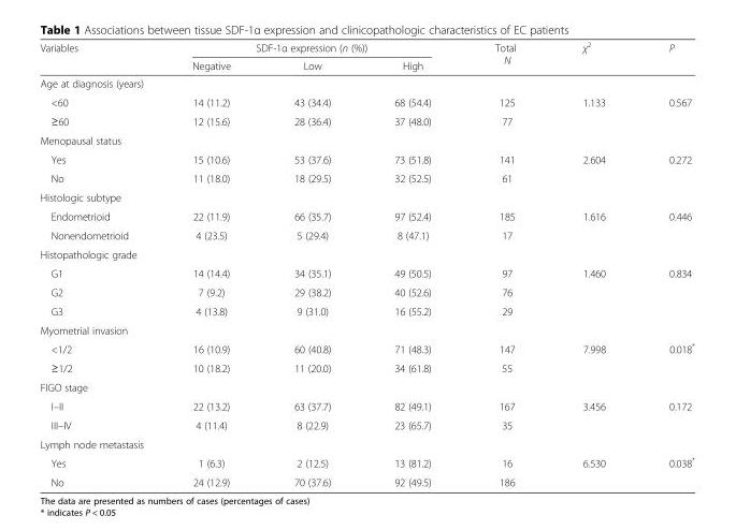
<table><thead><tr><td rowspan="2">Variables</td><td colspan="3">SDF-1α expression (n (%))</td><td rowspan="2">Total N</td><td rowspan="2">χ<sup>2</sup></td><td rowspan="2">P</td></tr><tr><td>Negative</td><td>Low</td><td>High</td></tr></thead><tbody><tr><td colspan="7">Age at diagnosis (years)</td></tr><tr><td>&lt;60</td><td>14 (11.2)</td><td>43 (34.4)</td><td>68 (54.4)</td><td>125</td><td rowspan="2">1.133</td><td rowspan="2">0.567</td></tr><tr><td>≥60</td><td>12 (15.6)</td><td>28 (36.4)</td><td>37 (48.0)</td><td>77</td></tr><tr><td colspan="7">Menopausal status</td></tr><tr><td>Yes</td><td>15 (10.6)</td><td>53 (37.6)</td><td>73 (51.8)</td><td>141</td><td rowspan="2">2.604</td><td rowspan="2">0.272</td></tr><tr><td>No</td><td>11 (18.0)</td><td>18 (29.5)</td><td>32 (52.5)</td><td>61</td></tr><tr><td colspan="7">Histologic subtype</td></tr><tr><td>Endometrioid</td><td>22 (11.9)</td><td>66 (35.7)</td><td>97 (52.4)</td><td>185</td><td rowspan="2">1.616</td><td rowspan="2">0.446</td></tr><tr><td>Nonendometrioid</td><td>4 (23.5)</td><td>5 (29.4)</td><td>8 (47.1)</td><td>17</td></tr><tr><td colspan="7">Histopathologic grade</td></tr><tr><td>G1</td><td>14 (14.4)</td><td>34 (35.1)</td><td>49 (50.5)</td><td>97</td><td rowspan="3">1.460</td><td rowspan="3">0.834</td></tr><tr><td>G2</td><td>7 (9.2)</td><td>29 (38.2)</td><td>40 (52.6)</td><td>76</td></tr><tr><td>G3</td><td>4 (13.8)</td><td>9 (31.0)</td><td>16 (55.2)</td><td>29</td></tr><tr><td colspan="7">Myometrial invasion</td></tr><tr><td>&lt;1/2</td><td>16 (10.9)</td><td>60 (40.8)</td><td>71 (48.3)</td><td>147</td><td rowspan="2">7.998</td><td rowspan="2">0.018*</td></tr><tr><td>≥1/2</td><td>10 (18.2)</td><td>11 (20.0)</td><td>34 (61.8)</td><td>55</td></tr><tr><td colspan="7">FIGO stage</td></tr><tr><td>I–II</td><td>22 (13.2)</td><td>63 (37.7)</td><td>82 (49.1)</td><td>167</td><td rowspan="2">3.456</td><td rowspan="2">0.172</td></tr><tr><td>III–IV</td><td>4 (11.4)</td><td>8 (22.9)</td><td>23 (65.7)</td><td>35</td></tr><tr><td colspan="7">Lymph node metastasis</td></tr><tr><td>Yes</td><td>1 (6.3)</td><td>2 (12.5)</td><td>13 (81.2)</td><td>16</td><td rowspan="2">6.530</td><td rowspan="2">0.038*</td></tr><tr><td>No</td><td>24 (12.9)</td><td>70 (37.6)</td><td>92 (49.5)</td><td>186</td></tr></tbody></table>